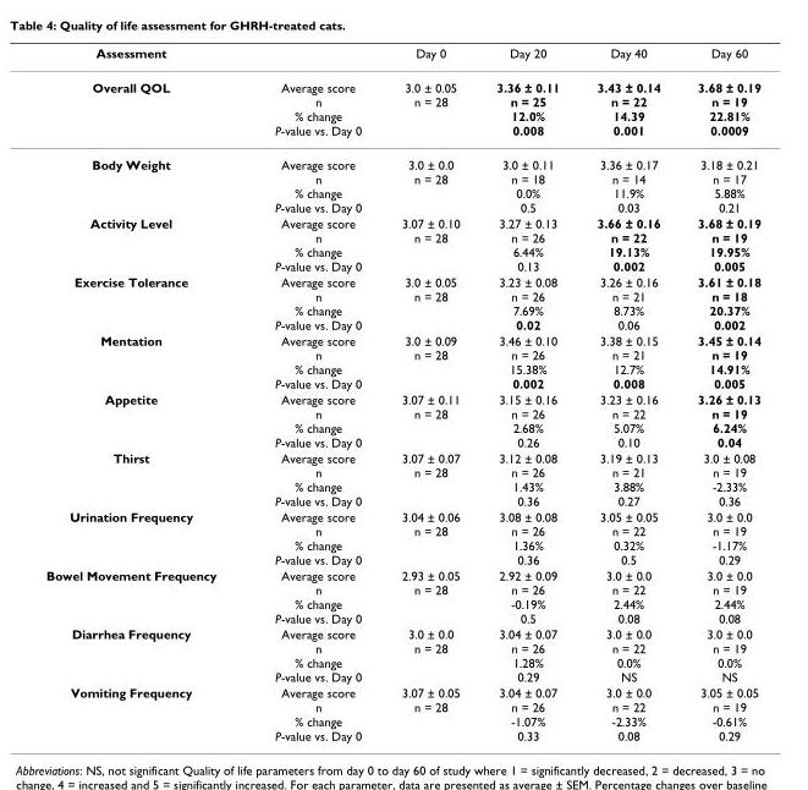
<table><thead><tr><td>Assessment</td><td></td><td>Day 0</td><td>Day 20</td><td>Day 40</td><td>Day 60</td></tr></thead><tbody><tr><td>Overall QOL</td><td>Average score n % change P-value vs. Day 0</td><td>3.0 ± 0.05 n = 28</td><td>3.36 ± 0.11 n = 25 12.0% 0.008</td><td>3.43 ± 0.14 n = 22 14.39 0.001</td><td>3.68 ± 0.19 n = 19 22.81% 0.0009</td></tr><tr><td>Body Weight</td><td>Average score n % change P-value vs. Day 0</td><td>3.0 ± 0.0 n = 28</td><td>3.0 ± 0.11 n = 18 0.0% 0.5</td><td>3.36 ± 0.17 n = 14 11.9% 0.03</td><td>3.18 ± 0.21 n = 17 5.88% 0.21</td></tr><tr><td>Activity Level</td><td>Average score n % change P-value vs. Day 0</td><td>3.07 ± 0.10 n = 28</td><td>3.27 ± 0.13 n = 26 6.44% 0.13</td><td>3.66 ± 0.16 n = 22 19.13% 0.002</td><td>3.68 ± 0.19 n = 19 19.95% 0.005</td></tr><tr><td>Exercise Tolerance</td><td>Average score n % change P-value vs. Day 0</td><td>3.0 ± 0.05 n = 28</td><td>3.23 ± 0.08 n = 26 7.69% 0.02</td><td>3.26 ± 0.16 n = 21 8.73% 0.06</td><td>3.61 ± 0.18 n = 18 20.37% 0.002</td></tr><tr><td>Mentation</td><td>Average score n % change P-value vs. Day 0</td><td>3.0 ± 0.09 n = 28</td><td>3.46 ± 0.10 n = 26 15.38% 0.002</td><td>3.38 ± 0.15 n = 21 12.7% 0.008</td><td>3.45 ± 0.14 n = 19 14.91% 0.005</td></tr><tr><td>Appetite</td><td>Average score n % change P-value vs. Day 0</td><td>3.07 ± 0.11 n = 28</td><td>3.15 ± 0.16 n = 26 2.68% 0.26</td><td>3.23 ± 0.16 n = 22 5.07% 0.10</td><td>3.26 ± 0.13 n = 19 6.24% 0.04</td></tr><tr><td>Thirst</td><td>Average score n % change P-value vs. Day 0</td><td>3.07 ± 0.07 n = 28</td><td>3.12 ± 0.08 n = 26 1.43% 0.36</td><td>3.19 ± 0.13 n = 21 3.88% 0.27</td><td>3.0 ± 0.08 n = 19 -2.33% 0.36</td></tr><tr><td>Urination Frequency</td><td>Average score n % change P-value vs. Day 0</td><td>3.04 ± 0.06 n = 28</td><td>3.08 ± 0.08 n = 26 1.36% 0.36</td><td>3.05 ± 0.05 n = 22 0.32% 0.5</td><td>3.0 ± 0.0 n = 19 -1.17% 0.29</td></tr><tr><td>Bowel Movement Frequency</td><td>Average score n % change P-value vs. Day 0</td><td>2.93 ± 0.05 n = 28</td><td>2.92 ± 0.09 n = 26 -0.19% 0.5</td><td>3.0 ± 0.0 n = 22 2.44% 0.08</td><td>3.0 ± 0.0 n = 19 2.44% 0.08</td></tr><tr><td>Diarrhea Frequency</td><td>Average score n % change P-value vs. Day 0</td><td>3.0 ± 0.0 n = 28</td><td>3.04 ± 0.07 n = 26 1.28% 0.29</td><td>3.0 ± 0.0 n = 22 0.0% NS</td><td>3.0 ± 0.0 n = 19 0.0% NS</td></tr><tr><td>Vomiting Frequency</td><td>Average score n % change P-value vs. Day 0</td><td>3.07 ± 0.05 n = 28</td><td>3.04 ± 0.07 n = 26 -1.07% 0.33</td><td>3.0 ± 0.0 n = 22 -2.33% 0.08</td><td>3.05 ± 0.05 n = 19 -0.61% 0.29</td></tr></tbody></table>